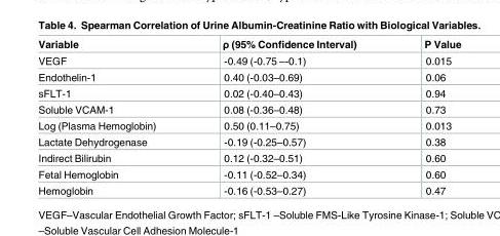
<table><thead><tr><td>Variable</td><td>ρ (95% Confidence Interval)</td><td>P Value</td></tr></thead><tbody><tr><td>VEGF</td><td>-0.49 (-0.75 –-0.1)</td><td>0.015</td></tr><tr><td>Endothelin-1</td><td>0.40 (-0.03–0.69)</td><td>0.06</td></tr><tr><td>sFLT-1</td><td>0.02 (-0.40–0.43)</td><td>0.94</td></tr><tr><td>Soluble VCAM-1</td><td>0.08 (-0.36–0.48)</td><td>0.73</td></tr><tr><td>Log (Plasma Hemoglobin)</td><td>0.50 (0.11–0.75)</td><td>0.013</td></tr><tr><td>Lactate Dehydrogenase</td><td>-0.19 (-0.25–0.57)</td><td>0.38</td></tr><tr><td>Indirect Bilirubin</td><td>0.12 (-0.32–0.51)</td><td>0.60</td></tr><tr><td>Fetal Hemoglobin</td><td>-0.11 (-0.52–0.34)</td><td>0.60</td></tr><tr><td>Hemoglobin</td><td>-0.16 (-0.53–0.27)</td><td>0.47</td></tr></tbody></table>